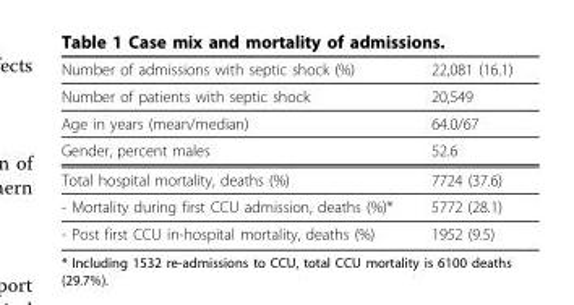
<table><tbody><tr><td>Number of admissions with septic shock (%)</td><td>22,081 (16.1)</td></tr><tr><td>Number of patients with septic shock</td><td>20,549</td></tr><tr><td>Age in years (mean/median)</td><td>64.0/67</td></tr><tr><td>Gender, percent males</td><td>52.6</td></tr><tr><td>Total hospital mortality, deaths (%)</td><td>7724 (37.6)</td></tr><tr><td>- Mortality during first CCU admission, deaths (%)*</td><td>5772 (28.1)</td></tr><tr><td>- Post first CCU in-hospital mortality, deaths (%)</td><td>1952 (9.5)</td></tr></tbody></table>